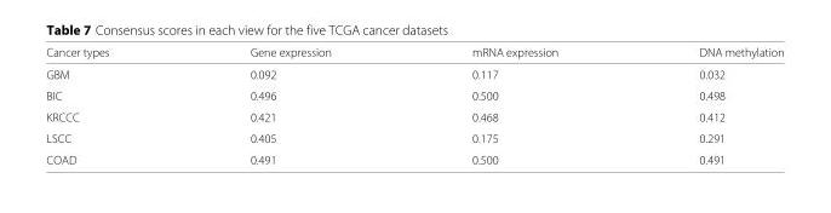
<table><thead><tr><td>Cancer types</td><td>Gene expression</td><td>mRNA expression</td><td>DNA methylation</td></tr></thead><tbody><tr><td>GBM</td><td>0.092</td><td>0.117</td><td>0.032</td></tr><tr><td>BIC</td><td>0.496</td><td>0.500</td><td>0.498</td></tr><tr><td>KRCCC</td><td>0.421</td><td>0.468</td><td>0.412</td></tr><tr><td>LSCC</td><td>0.405</td><td>0.175</td><td>0.291</td></tr><tr><td>COAD</td><td>0.491</td><td>0.500</td><td>0.491</td></tr></tbody></table>